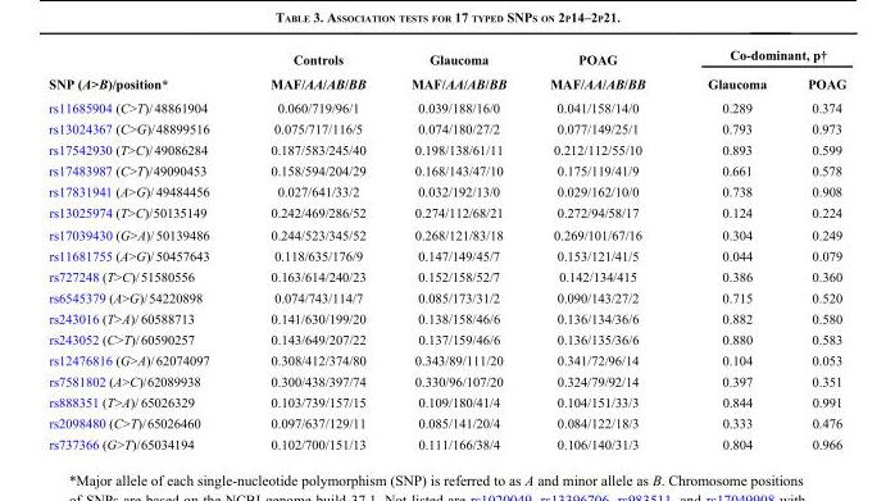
<table><thead><tr><td rowspan="2">SNP (A&gt;B)/position*</td><td rowspan="2">Controls MAF/AA/AB/BB</td><td rowspan="2">Glaucoma MAF/AA/AB/BB</td><td rowspan="2">POAG MAF/AA/AB/BB</td><td colspan="2">Co-dominant, p†</td></tr><tr><td>Glaucoma</td><td>POAG</td></tr></thead><tbody><tr><td>rs11685904 (C&gt;T)/48861904</td><td>0.060/719/96/1</td><td>0.039/188/16/0</td><td>0.041/158/14/0</td><td>0.289</td><td>0.374</td></tr><tr><td>rs13024367 (C&gt;G)/48899516</td><td>0.075/717/116/5</td><td>0.074/180/27/2</td><td>0.077/149/25/1</td><td>0.793</td><td>0.973</td></tr><tr><td>rs17542930 (T&gt;C)/49086284</td><td>0.187/583/245/40</td><td>0.198/138/61/11</td><td>0.212/112/55/10</td><td>0.893</td><td>0.599</td></tr><tr><td>rs17483987 (C&gt;T)/49090453</td><td>0.158/594/204/29</td><td>0.168/143/47/10</td><td>0.175/119/41/9</td><td>0.661</td><td>0.578</td></tr><tr><td>rs17831941 (A&gt;G)/49484456</td><td>0.027/641/33/2</td><td>0.032/192/13/0</td><td>0.029/162/10/0</td><td>0.738</td><td>0.908</td></tr><tr><td>rs13025974 (T&gt;C)/50135149</td><td>0.242/469/286/52</td><td>0.274/112/68/21</td><td>0.272/94/58/17</td><td>0.124</td><td>0.224</td></tr><tr><td>rs17039430 (G&gt;A)/50139486</td><td>0.244/523/345/52</td><td>0.268/121/83/18</td><td>0.269/101/67/16</td><td>0.304</td><td>0.249</td></tr><tr><td>rs11681755 (A&gt;G)/50457643</td><td>0.118/635/176/9</td><td>0.147/149/45/7</td><td>0.153/121/41/5</td><td>0.044</td><td>0.079</td></tr><tr><td>rs727248 (T&gt;C)/51580556</td><td>0.163/614/240/23</td><td>0.152/158/52/7</td><td>0.142/134/415</td><td>0.386</td><td>0.360</td></tr><tr><td>rs6545379 (A&gt;G)/54220898</td><td>0.074/743/114/7</td><td>0.085/173/31/2</td><td>0.090/143/27/2</td><td>0.715</td><td>0.520</td></tr><tr><td>rs243016 (T&gt;A)/ 60588713</td><td>0.141/630/199/20</td><td>0.138/158/46/6</td><td>0.136/134/36/6</td><td>0.882</td><td>0.580</td></tr><tr><td>rs243052 (C&gt;T)/60590257</td><td>0.143/649/207/22</td><td>0.137/159/46/6</td><td>0.136/135/36/6</td><td>0.880</td><td>0.583</td></tr><tr><td>rs12476816 (G&gt;A)/62074097</td><td>0.308/412/374/80</td><td>0.343/89/111/20</td><td>0.341/72/96/14</td><td>0.104</td><td>0.053</td></tr><tr><td>rs7581802 (A&gt;C)/62089938</td><td>0.300/438/397/74</td><td>0.330/96/107/20</td><td>0.324/79/92/14</td><td>0.397</td><td>0.351</td></tr><tr><td>rs888351 (T&gt;A)/ 65026329</td><td>0.103/739/157/15</td><td>0.109/180/41/4</td><td>0.104/151/33/3</td><td>0.844</td><td>0.991</td></tr><tr><td>rs2098480 (C&gt;T)/65026460</td><td>0.097/637/129/11</td><td>0.085/141/20/4</td><td>0.084/122/18/3</td><td>0.333</td><td>0.476</td></tr><tr><td>rs737366 (G&gt;T)/65034194</td><td>0.102/700/151/13</td><td>0.111/166/38/4</td><td>0.106/140/31/3</td><td>0.804</td><td>0.966</td></tr></tbody></table>